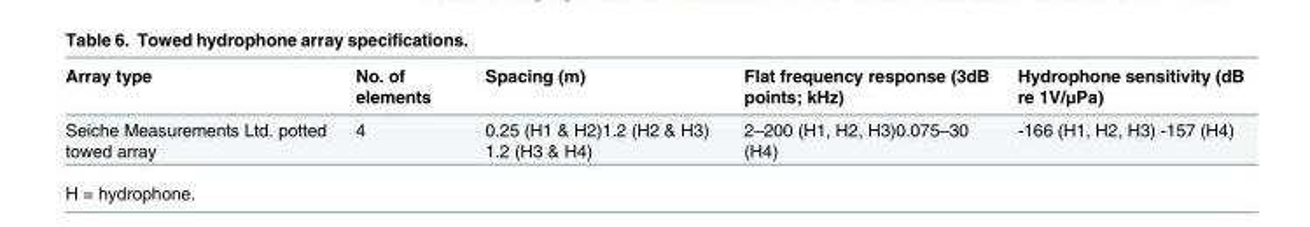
<table><thead><tr><td>Array type</td><td>No. of elements</td><td>Spacing (m)</td><td>Flat frequency response (3dB points; kHz)</td><td>Hydrophone sensitivity (dB re 1V/μPa)</td></tr></thead><tbody><tr><td>Seiche Measurements Ltd. potted towed array</td><td>4</td><td>0.25 (H1 &amp; H2)1.2 (H2 &amp; H3) 1.2 (H3 &amp; H4)</td><td>2–200 (H1, H2, H3)0.075–30 (H4)</td><td>-166 (H1, H2, H3) -157 (H4)</td></tr></tbody></table>